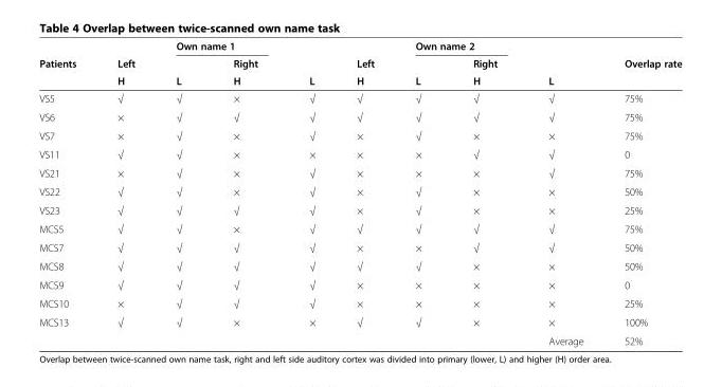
<table><thead><tr><td rowspan="3">Patients</td><td rowspan="3">Left H</td><td colspan="2">Own name 1</td><td rowspan="3">L</td><td rowspan="3">Left H</td><td colspan="2">Own name 2</td><td rowspan="3">L</td><td rowspan="3">Overlap rate</td></tr><tr><td rowspan="2">L</td><td rowspan="2">Right H</td><td rowspan="2">L</td><td rowspan="2">Right H</td></tr><tr></tr></thead><tbody><tr><td>VS5</td><td>√</td><td>√</td><td>×</td><td>√</td><td>√</td><td>√</td><td>√</td><td>√</td><td>75%</td></tr><tr><td>VS6</td><td>×</td><td>√</td><td>√</td><td>√</td><td>√</td><td>√</td><td>√</td><td>√</td><td>75%</td></tr><tr><td>VS7</td><td>×</td><td>√</td><td>×</td><td>√</td><td>×</td><td>√</td><td>×</td><td>×</td><td>75%</td></tr><tr><td>VS11</td><td>√</td><td>√</td><td>×</td><td>×</td><td>×</td><td>×</td><td>√</td><td>√</td><td>0</td></tr><tr><td>VS21</td><td>×</td><td>√</td><td>×</td><td>√</td><td>×</td><td>×</td><td>×</td><td>√</td><td>75%</td></tr><tr><td>VS22</td><td>√</td><td>√</td><td>×</td><td>√</td><td>×</td><td>√</td><td>×</td><td>×</td><td>50%</td></tr><tr><td>VS23</td><td>√</td><td>√</td><td>√</td><td>√</td><td>×</td><td>√</td><td>×</td><td>×</td><td>25%</td></tr><tr><td>MCS5</td><td>√</td><td>√</td><td>×</td><td>√</td><td>√</td><td>√</td><td>√</td><td>√</td><td>75%</td></tr><tr><td>MCS7</td><td>√</td><td>√</td><td>√</td><td>√</td><td>×</td><td>×</td><td>√</td><td>√</td><td>50%</td></tr><tr><td>MCS8</td><td>√</td><td>√</td><td>√</td><td>√</td><td>√</td><td>√</td><td>×</td><td>×</td><td>50%</td></tr><tr><td>MCS9</td><td>√</td><td>√</td><td>√</td><td>√</td><td>×</td><td>×</td><td>×</td><td>×</td><td>0</td></tr><tr><td>MCS10</td><td>×</td><td>√</td><td>√</td><td>√</td><td>×</td><td>×</td><td>×</td><td>×</td><td>25%</td></tr><tr><td rowspan="2">MCS13</td><td>√</td><td>√</td><td>×</td><td>×</td><td>√</td><td>√</td><td>×</td><td>×</td><td>100%</td></tr><tr><td></td><td></td><td></td><td></td><td></td><td></td><td></td><td>Average</td><td>52%</td></tr></tbody></table>